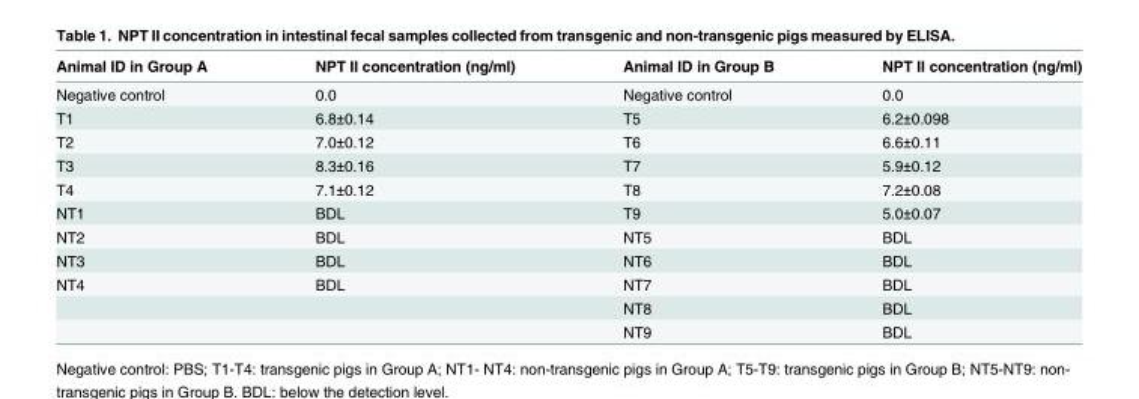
<table><thead><tr><td>Animal ID in Group A</td><td>NPT II concentration (ng/ml)</td><td>Animal ID in Group B</td><td>NPT II concentration (ng/ml)</td></tr></thead><tbody><tr><td>Negative control</td><td>0.0</td><td>Negative control</td><td>0.0</td></tr><tr><td>T1</td><td>6.8±0.14</td><td>T5</td><td>6.2±0.098</td></tr><tr><td>T2</td><td>7.0±0.12</td><td>T6</td><td>6.6±0.11</td></tr><tr><td>T3</td><td>8.3±0.16</td><td>T7</td><td>5.9±0.12</td></tr><tr><td>T4</td><td>7.1±0.12</td><td>T8</td><td>7.2±0.08</td></tr><tr><td>NT1</td><td>BDL</td><td>T9</td><td>5.0±0.07</td></tr><tr><td>NT2</td><td>BDL</td><td>NT5</td><td>BDL</td></tr><tr><td>NT3</td><td>BDL</td><td>NT6</td><td>BDL</td></tr><tr><td rowspan="3">NT4</td><td>BDL</td><td>NT7</td><td>BDL</td></tr><tr><td></td><td>NT8</td><td>BDL</td></tr><tr><td></td><td>NT9</td><td>BDL</td></tr></tbody></table>